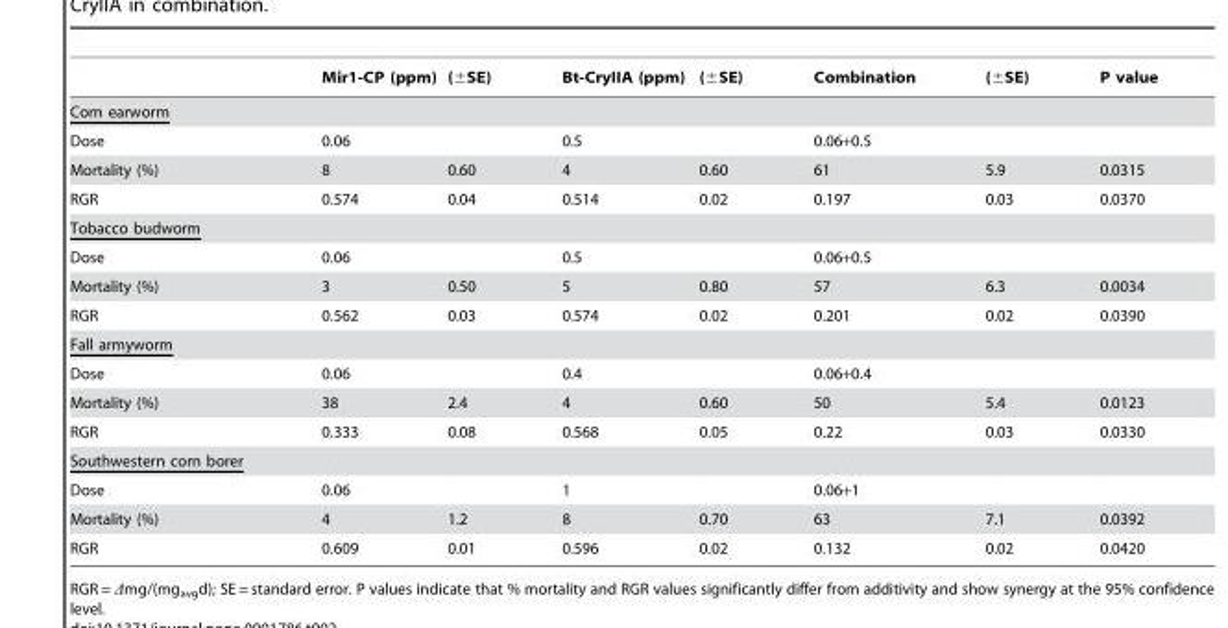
<table><thead><tr><td></td><td>Mir1-CP (ppm)</td><td>(±SE)</td><td>Bt-CryIIA (ppm)</td><td>(±SE)</td><td>Combination</td><td>(±SE)</td><td>P value</td></tr></thead><tbody><tr><td colspan="8">Corn earworm</td></tr><tr><td>Dose</td><td>0.06</td><td></td><td>0.5</td><td></td><td>0.06+0.5</td><td></td><td></td></tr><tr><td>Mortality (%)</td><td>8</td><td>0.60</td><td>4</td><td>0.60</td><td>61</td><td>5.9</td><td>0.0315</td></tr><tr><td>RGR</td><td>0.574</td><td>0.04</td><td>0.514</td><td>0.02</td><td>0.197</td><td>0.03</td><td>0.0370</td></tr><tr><td colspan="8">Tobacco budworm</td></tr><tr><td>Dose</td><td>0.06</td><td></td><td>0.5</td><td></td><td>0.06+0.5</td><td></td><td></td></tr><tr><td>Mortality (%)</td><td>3</td><td>0.50</td><td>5</td><td>0.80</td><td>57</td><td>6.3</td><td>0.0034</td></tr><tr><td>RGR</td><td>0.562</td><td>0.03</td><td>0.574</td><td>0.02</td><td>0.201</td><td>0.02</td><td>0.0390</td></tr><tr><td colspan="8">Fall armyworm</td></tr><tr><td>Dose</td><td>0.06</td><td></td><td>0.4</td><td></td><td>0.06+0.4</td><td></td><td></td></tr><tr><td>Mortality (%)</td><td>38</td><td>2.4</td><td>4</td><td>0.60</td><td>50</td><td>5.4</td><td>0.0123</td></tr><tr><td>RGR</td><td>0.333</td><td>0.08</td><td>0.568</td><td>0.05</td><td>0.22</td><td>0.03</td><td>0.0330</td></tr><tr><td colspan="8">Southwestern corn borer</td></tr><tr><td>Dose</td><td>0.06</td><td></td><td>1</td><td></td><td>0.06+1</td><td></td><td></td></tr><tr><td>Mortality (%)</td><td>4</td><td>1.2</td><td>8</td><td>0.70</td><td>63</td><td>7.1</td><td>0.0392</td></tr><tr><td>RGR</td><td>0.609</td><td>0.01</td><td>0.596</td><td>0.02</td><td>0.132</td><td>0.02</td><td>0.0420</td></tr></tbody></table>